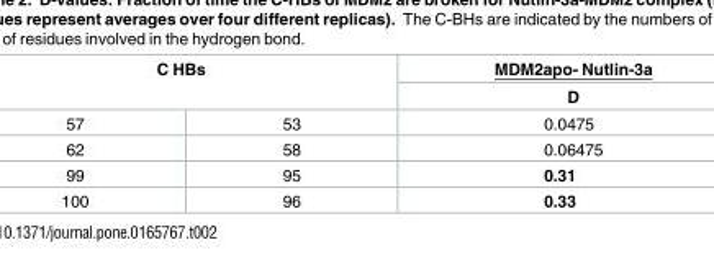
<table><thead><tr><td rowspan="2" colspan="2">C HBs</td><td rowspan="3">MDM2apo- Nutlin-3a D 0.0475</td></tr><tr></tr><tr><td>57</td><td>53</td></tr></thead><tbody><tr><td>62</td><td>58</td><td>0.06475</td></tr><tr><td>99</td><td>95</td><td>0.31</td></tr><tr><td>100</td><td>96</td><td>0.33</td></tr></tbody></table>